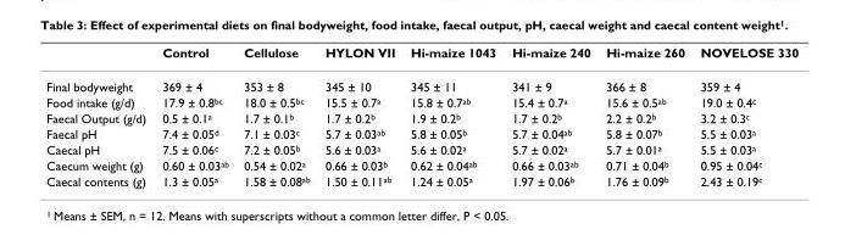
<table><thead><tr><td></td><td>Control</td><td>Cellulose</td><td>HYLON VII</td><td>Hi-maize 1043</td><td>Hi-maize 240</td><td>Hi-maize 260</td><td>NOVELOSE 330</td></tr></thead><tbody><tr><td>Final bodyweight</td><td>369 ± 4</td><td>353 ± 8</td><td>345 ± 10</td><td>345 ± 11</td><td>341 ± 9</td><td>366 ± 8</td><td>359 ± 4</td></tr><tr><td>Food intake (g/d)</td><td>17.9 ± 0.8<sup>bc</sup></td><td>18.0 ± 0.5<sup>bc</sup></td><td>15.5 ± 0.7<sup>a</sup></td><td>15.8 ± 0.7<sup>ab</sup></td><td>15.4 ± 0.7<sup>a</sup></td><td>15.6 ± 0.5<sup>ab</sup></td><td>19.0 ± 0.4<sup>c</sup></td></tr><tr><td>Faecal Output (g/d)</td><td>0.5 ± 0.1<sup>a</sup></td><td>1.7 ± 0.1<sup>b</sup></td><td>1.7 ± 0.2<sup>b</sup></td><td>1.9 ± 0.2<sup>b</sup></td><td>1.7 ± 0.2<sup>b</sup></td><td>2.2 ± 0.2<sup>b</sup></td><td>3.2 ± 0.3<sup>c</sup></td></tr><tr><td>Faecal pH</td><td>7.4 ± 0.05<sup>d</sup></td><td>7.1 ± 0.03<sup>c</sup></td><td>5.7 ± 0.03<sup>ab</sup></td><td>5.8 ± 0.05<sup>b</sup></td><td>5.7 ± 0.04<sup>ab</sup></td><td>5.8 ± 0.07<sup>b</sup></td><td>5.5 ± 0.03<sup>a</sup></td></tr><tr><td>Caecal pH</td><td>7.5 ± 0.06<sup>c</sup></td><td>7.2 ± 0.05<sup>b</sup></td><td>5.6 ± 0.03<sup>a</sup></td><td>5.6 ± 0.02<sup>a</sup></td><td>5.7 ± 0.02<sup>a</sup></td><td>5.7 ± 0.01<sup>a</sup></td><td>5.5 ± 0.03<sup>a</sup></td></tr><tr><td>Caecum weight (g)</td><td>0.60 ± 0.03<sup>ab</sup></td><td>0.54 ± 0.02<sup>a</sup></td><td>0.66 ± 0.03<sup>b</sup></td><td>0.62 ± 0.04<sup>ab</sup></td><td>0.66 ± 0.03<sup>ab</sup></td><td>0.71 ± 0.04<sup>b</sup></td><td>0.95 ± 0.04<sup>c</sup></td></tr><tr><td>Caecal contents (g)</td><td>1.3 ± 0.05<sup>a</sup></td><td>1.58 ± 0.08<sup>ab</sup></td><td>1.50 ± 0.11<sup>ab</sup></td><td>1.24 ± 0.05<sup>a</sup></td><td>1.97 ± 0.06<sup>b</sup></td><td>1.76 ± 0.09<sup>b</sup></td><td>2.43 ± 0.19<sup>c</sup></td></tr></tbody></table>